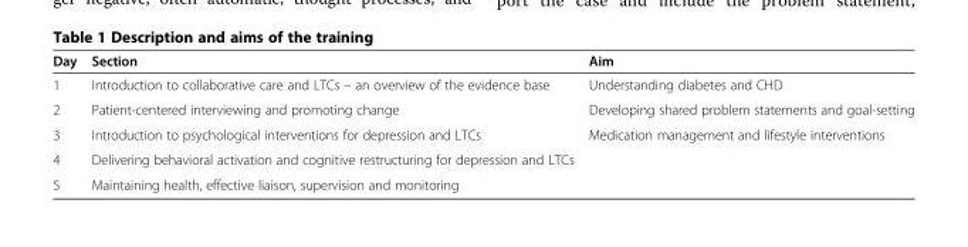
<table><thead><tr><td>Day</td><td>Section</td><td>Aim</td></tr></thead><tbody><tr><td>1</td><td>Introduction to collaborative care and LTCs – an overview of the evidence base</td><td>Understanding diabetes and CHD</td></tr><tr><td>2</td><td>Patient-centered interviewing and promoting change</td><td>Developing shared problem statements and goal-setting</td></tr><tr><td>3</td><td>Introduction to psychological interventions for depression and LTCs</td><td>Medication management and lifestyle interventions</td></tr><tr><td>4</td><td>Delivering behavioral activation and cognitive restructuring for depression and LTCs</td><td></td></tr><tr><td>5</td><td>Maintaining health, effective liaison, supervision and monitoring</td><td></td></tr></tbody></table>